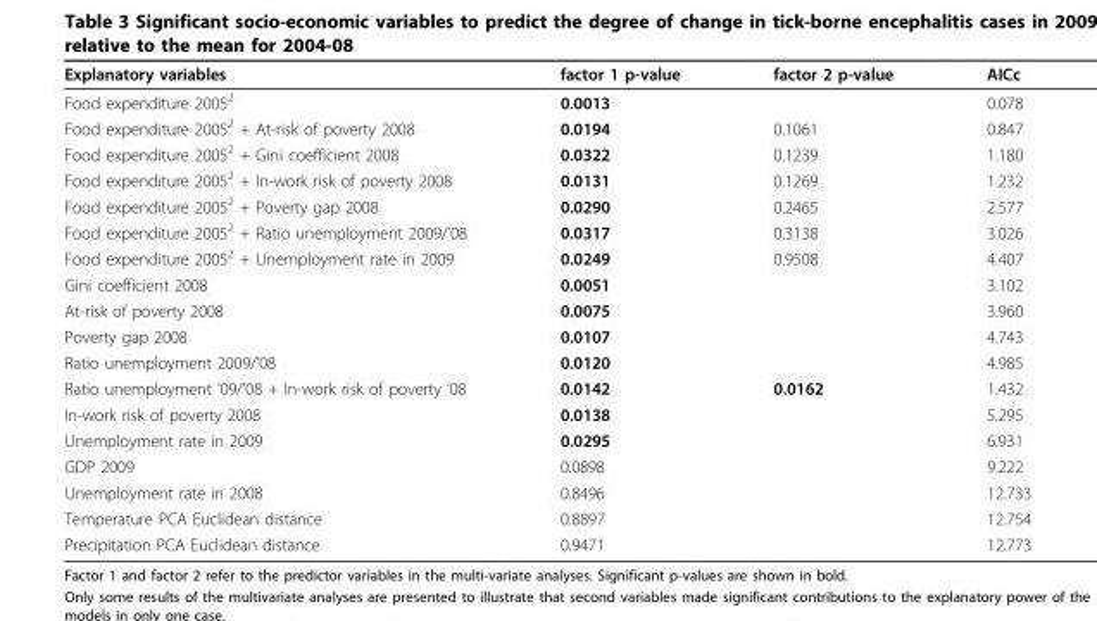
<table><thead><tr><td>Explanatory variables</td><td>factor 1 p-value</td><td>factor 2 p-value</td><td>AICc</td></tr></thead><tbody><tr><td>Food expenditure 2005<sup>2</sup></td><td>0.0013</td><td></td><td>0.078</td></tr><tr><td>Food expenditure 2005<sup>2</sup> + At-risk of poverty 2008</td><td>0.0194</td><td>0.1061</td><td>0.847</td></tr><tr><td>Food expenditure 2005<sup>2</sup> + Gini coefficient 2008</td><td>0.0322</td><td>0.1239</td><td>1.180</td></tr><tr><td>Food expenditure 2005<sup>2</sup> + In-work risk of poverty 2008</td><td>0.0131</td><td>0.1269</td><td>1.232</td></tr><tr><td>Food expenditure 2005<sup>2</sup> + Poverty gap 2008</td><td>0.0290</td><td>0.2465</td><td>2.577</td></tr><tr><td>Food expenditure 2005<sup>2</sup> + Ratio unemployment 2009/’08</td><td>0.0317</td><td>0.3138</td><td>3.026</td></tr><tr><td>Food expenditure 2005<sup>2</sup> + Unemployment rate in 2009</td><td>0.0249</td><td>0.9508</td><td>4.407</td></tr><tr><td>Gini coefficient 2008</td><td>0.0051</td><td></td><td>3.102</td></tr><tr><td>At-risk of poverty 2008</td><td>0.0075</td><td></td><td>3.960</td></tr><tr><td>Poverty gap 2008</td><td>0.0107</td><td></td><td>4.743</td></tr><tr><td>Ratio unemployment 2009/’08</td><td>0.0120</td><td></td><td>4.985</td></tr><tr><td>Ratio unemployment ‘09/’08 + In-work risk of poverty ‘08</td><td>0.0142</td><td>0.0162</td><td>1.432</td></tr><tr><td>In-work risk of poverty 2008</td><td>0.0138</td><td></td><td>5.295</td></tr><tr><td>Unemployment rate in 2009</td><td>0.0295</td><td></td><td>6.931</td></tr><tr><td>GDP 2009</td><td>0.0898</td><td></td><td>9.222</td></tr><tr><td>Unemployment rate in 2008</td><td>0.8496</td><td></td><td>12.733</td></tr><tr><td>Temperature PCA Euclidean distance</td><td>0.8897</td><td></td><td>12.754</td></tr><tr><td>Precipitation PCA Euclidean distance</td><td>0.9471</td><td></td><td>12.773</td></tr></tbody></table>